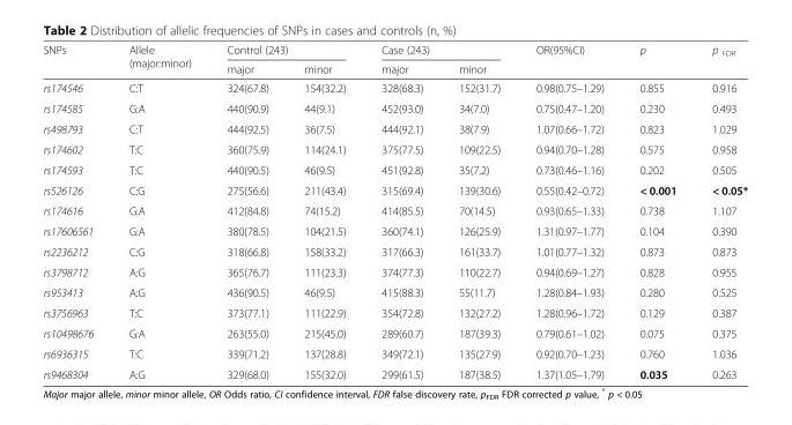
<table><thead><tr><td rowspan="2">SNPs</td><td rowspan="2">Allele (major:minor)</td><td colspan="2">Control (243)</td><td colspan="2">Case (243)</td><td rowspan="2">OR(95%CI)</td><td rowspan="2">p</td><td rowspan="2">p <sub>FDR</sub></td></tr><tr><td>major</td><td>minor</td><td>major</td><td>minor</td></tr></thead><tbody><tr><td>rs174546</td><td>C:T</td><td>324(67.8)</td><td>154(32.2)</td><td>328(68.3)</td><td>152(31.7)</td><td>0.98(0.75–1.29)</td><td>0.855</td><td>0.916</td></tr><tr><td>rs174585</td><td>G:A</td><td>440(90.9)</td><td>44(9.1)</td><td>452(93.0)</td><td>34(7.0)</td><td>0.75(0.47–1.20)</td><td>0.230</td><td>0.493</td></tr><tr><td>rs498793</td><td>C:T</td><td>444(92.5)</td><td>36(7.5)</td><td>444(92.1)</td><td>38(7.9)</td><td>1.07(0.66–1.72)</td><td>0.823</td><td>1.029</td></tr><tr><td>rs174602</td><td>T:C</td><td>360(75.9)</td><td>114(24.1)</td><td>375(77.5)</td><td>109(22.5)</td><td>0.94(0.70–1.28)</td><td>0.575</td><td>0.958</td></tr><tr><td>rs174593</td><td>T:C</td><td>440(90.5)</td><td>46(9.5)</td><td>451(92.8)</td><td>35(7.2)</td><td>0.73(0.46–1.16)</td><td>0.202</td><td>0.505</td></tr><tr><td>rs526126</td><td>C:G</td><td>275(56.6)</td><td>211(43.4)</td><td>315(69.4)</td><td>139(30.6)</td><td>0.55(0.42–0.72)</td><td>&lt; 0.001</td><td>&lt; 0.05*</td></tr><tr><td>rs174616</td><td>G:A</td><td>412(84.8)</td><td>74(15.2)</td><td>414(85.5)</td><td>70(14.5)</td><td>0.93(0.65–1.33)</td><td>0.738</td><td>1.107</td></tr><tr><td>rs17606561</td><td>G:A</td><td>380(78.5)</td><td>104(21.5)</td><td>360(74.1)</td><td>126(25.9)</td><td>1.31(0.97–1.77)</td><td>0.104</td><td>0.390</td></tr><tr><td>rs2236212</td><td>C:G</td><td>318(66.8)</td><td>158(33.2)</td><td>317(66.3)</td><td>161(33.7)</td><td>1.01(0.77–1.32)</td><td>0.873</td><td>0.873</td></tr><tr><td>rs3798712</td><td>A:G</td><td>365(76.7)</td><td>111(23.3)</td><td>374(77.3)</td><td>110(22.7)</td><td>0.94(0.69–1.27)</td><td>0.828</td><td>0.955</td></tr><tr><td>rs953413</td><td>A:G</td><td>436(90.5)</td><td>46(9.5)</td><td>415(88.3)</td><td>55(11.7)</td><td>1.28(0.84–1.93)</td><td>0.280</td><td>0.525</td></tr><tr><td>rs3756963</td><td>T:C</td><td>373(77.1)</td><td>111(22.9)</td><td>354(72.8)</td><td>132(27.2)</td><td>1.28(0.96–1.72)</td><td>0.129</td><td>0.387</td></tr><tr><td>rs10498676</td><td>G:A</td><td>263(55.0)</td><td>215(45.0)</td><td>289(60.7)</td><td>187(39.3)</td><td>0.79(0.61–1.02)</td><td>0.075</td><td>0.375</td></tr><tr><td>rs6936315</td><td>T:C</td><td>339(71.2)</td><td>137(28.8)</td><td>349(72.1)</td><td>135(27.9)</td><td>0.92(0.70–1.23)</td><td>0.760</td><td>1.036</td></tr><tr><td>rs9468304</td><td>A:G</td><td>329(68.0)</td><td>155(32.0)</td><td>299(61.5)</td><td>187(38.5)</td><td>1.37(1.05–1.79)</td><td>0.035</td><td>0.263</td></tr></tbody></table>